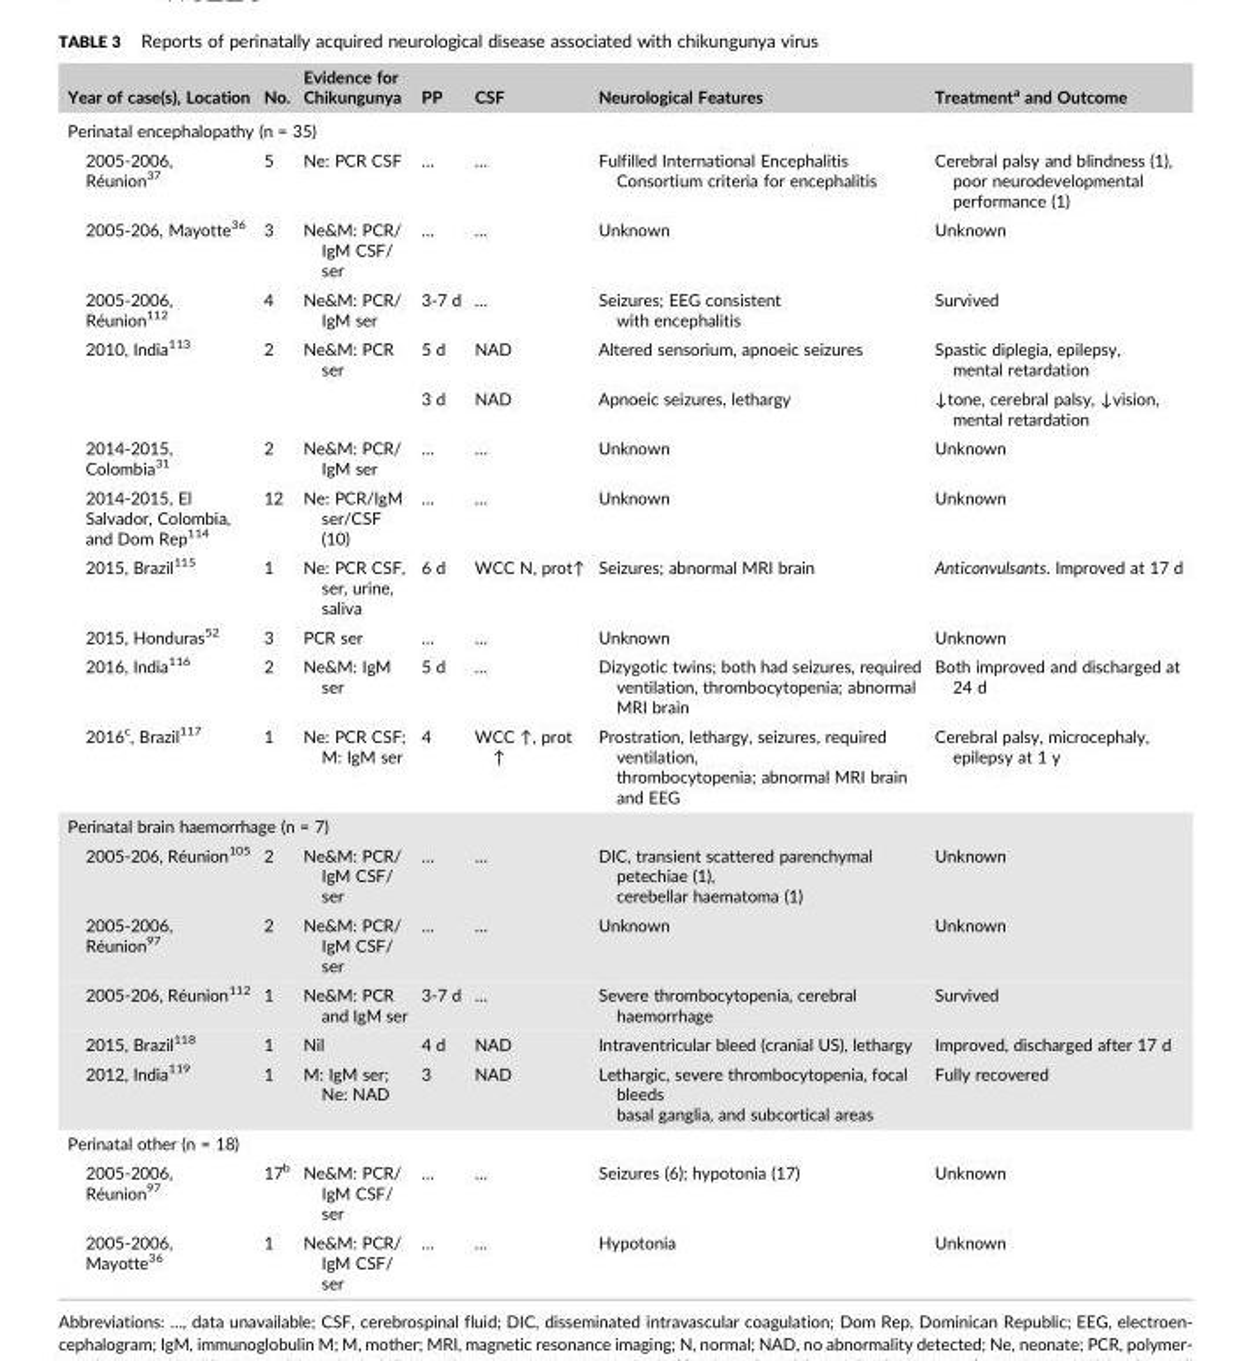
<table><thead><tr><td>Year of case(s), Location</td><td>No.</td><td>Evidence for Chikungunya</td><td>PP</td><td>CSF</td><td>Neurological Features</td><td>Treatment<sup>a</sup> and Outcome</td></tr></thead><tbody><tr><td colspan="7">Perinatal encephalopathy (n = 35)</td></tr><tr><td>2005‐2006, Réunion<sup>37</sup></td><td>5</td><td>Ne: PCR CSF</td><td>…</td><td>…</td><td>Fulfilled International Encephalitis Consortium criteria for encephalitis</td><td>Cerebral palsy and blindness (1), poor neurodevelopmental performance (1)</td></tr><tr><td>2005‐206, Mayotte<sup>36</sup></td><td>3</td><td>Ne&amp;M: PCR/ IgM CSF/ ser</td><td>…</td><td>…</td><td>Unknown</td><td>Unknown</td></tr><tr><td>2005‐2006, Réunion<sup>112</sup></td><td>4</td><td>Ne&amp;M: PCR/ IgM ser</td><td>3‐7 d</td><td>…</td><td>Seizures; EEG consistent with encephalitis</td><td>Survived</td></tr><tr><td rowspan="2">2010, India<sup>113</sup></td><td>2</td><td>Ne&amp;M: PCR ser</td><td>5 d</td><td>NAD</td><td>Altered sensorium, apnoeic seizures</td><td>Spastic diplegia, epilepsy, mental retardation</td></tr><tr><td></td><td></td><td>3 d</td><td>NAD</td><td>Apnoeic seizures, lethargy</td><td>↓tone, cerebral palsy, ↓vision, mental retardation</td></tr><tr><td>2014‐2015, Colombia<sup>31</sup></td><td>2</td><td>Ne&amp;M: PCR/ IgM ser</td><td>…</td><td>…</td><td>Unknown</td><td>Unknown</td></tr><tr><td>2014‐2015, El Salvador, Colombia, and Dom Rep<sup>114</sup></td><td>12</td><td>Ne: PCR/IgM ser/CSF (10)</td><td>…</td><td>…</td><td>Unknown</td><td>Unknown</td></tr><tr><td>2015, Brazil<sup>115</sup></td><td>1</td><td>Ne: PCR CSF, ser, urine, saliva</td><td>6 d</td><td>WCC N, prot↑</td><td>Seizures; abnormal MRI brain</td><td>Anticonvulsants. Improved at 17 d</td></tr><tr><td>2015, Honduras<sup>52</sup></td><td>3</td><td>PCR ser</td><td>…</td><td>…</td><td>Unknown</td><td>Unknown</td></tr><tr><td>2016, India<sup>116</sup></td><td>2</td><td>Ne&amp;M: IgM ser</td><td>5 d</td><td>…</td><td>Dizygotic twins; both had seizures, required ventilation, thrombocytopenia; abnormal MRI brain</td><td>Both improved and discharged at 24 d</td></tr><tr><td>2016<sup>c</sup>, Brazil<sup>117</sup></td><td>1</td><td>Ne: PCR CSF; M: IgM ser</td><td>4</td><td>WCC ↑, prot ↑</td><td>Prostration, lethargy, seizures, required ventilation, thrombocytopenia; abnormal MRI brain and EEG</td><td>Cerebral palsy, microcephaly, epilepsy at 1 y</td></tr><tr><td colspan="7">Perinatal brain haemorrhage (n = 7)</td></tr><tr><td>2005‐206, Réunion<sup>105</sup></td><td>2</td><td>Ne&amp;M: PCR/ IgM CSF/ ser</td><td>…</td><td>…</td><td>DIC, transient scattered parenchymal petechiae (1), cerebellar haematoma (1)</td><td>Unknown</td></tr><tr><td>2005‐2006, Réunion<sup>97</sup></td><td>2</td><td>Ne&amp;M: PCR/ IgM CSF/ ser</td><td>…</td><td>…</td><td>Unknown</td><td>Unknown</td></tr><tr><td>2005‐206, Réunion<sup>112</sup></td><td>1</td><td>Ne&amp;M: PCR and IgM ser</td><td>3‐7 d</td><td>…</td><td>Severe thrombocytopenia, cerebral haemorrhage</td><td>Survived</td></tr><tr><td>2015, Brazil<sup>118</sup></td><td>1</td><td>Nil</td><td>4 d</td><td>NAD</td><td>Intraventricular bleed (cranial US), lethargy</td><td>Improved, discharged after 17 d</td></tr><tr><td>2012, India<sup>119</sup></td><td>1</td><td>M: IgM ser; Ne: NAD</td><td>3</td><td>NAD</td><td>Lethargic, severe thrombocytopenia, focal bleeds basal ganglia, and subcortical areas</td><td>Fully recovered</td></tr><tr><td colspan="7">Perinatal other (n = 18)</td></tr><tr><td>2005‐2006, Réunion<sup>97</sup></td><td>17<sup>b</sup></td><td>Ne&amp;M: PCR/ IgM CSF/ ser</td><td>…</td><td>…</td><td>Seizures (6); hypotonia (17)</td><td>Unknown</td></tr><tr><td>2005‐2006, Mayotte<sup>36</sup></td><td>1</td><td>Ne&amp;M: PCR/ IgM CSF/ ser</td><td>…</td><td>…</td><td>Hypotonia</td><td>Unknown</td></tr></tbody></table>